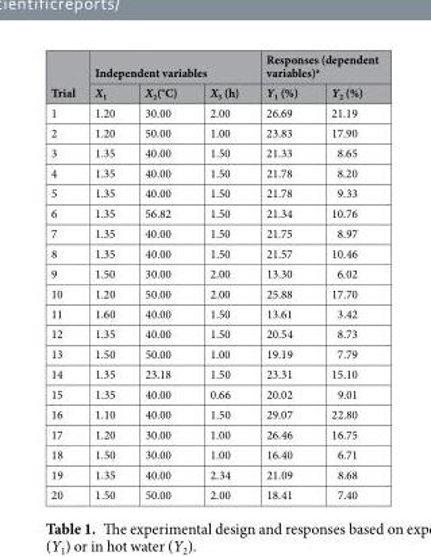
<table><thead><tr><td rowspan="2">Trial</td><td colspan="3">Independent variables</td><td colspan="2">Responses (dependent variables)<sup>a</sup></td></tr><tr><td>X<sub>1</sub></td><td>X<sub>2</sub>(°C)</td><td>X<sub>3</sub> (h)</td><td>Y<sub>1</sub> (%)</td><td>Y<sub>2</sub> (%)</td></tr></thead><tbody><tr><td>1</td><td>1.20</td><td>30.00</td><td>2.00</td><td>26.69</td><td>21.19</td></tr><tr><td>2</td><td>1.20</td><td>50.00</td><td>1.00</td><td>23.83</td><td>17.90</td></tr><tr><td>3</td><td>1.35</td><td>40.00</td><td>1.50</td><td>21.33</td><td>8.65</td></tr><tr><td>4</td><td>1.35</td><td>40.00</td><td>1.50</td><td>21.78</td><td>8.20</td></tr><tr><td>5</td><td>1.35</td><td>40.00</td><td>1.50</td><td>21.78</td><td>9.33</td></tr><tr><td>6</td><td>1.35</td><td>56.82</td><td>1.50</td><td>21.34</td><td>10.76</td></tr><tr><td>7</td><td>1.35</td><td>40.00</td><td>1.50</td><td>21.75</td><td>8.97</td></tr><tr><td>8</td><td>1.35</td><td>40.00</td><td>1.50</td><td>21.57</td><td>10.46</td></tr><tr><td>9</td><td>1.50</td><td>30.00</td><td>2.00</td><td>13.30</td><td>6.02</td></tr><tr><td>10</td><td>1.20</td><td>50.00</td><td>2.00</td><td>25.88</td><td>17.70</td></tr><tr><td>11</td><td>1.60</td><td>40.00</td><td>1.50</td><td>13.61</td><td>3.42</td></tr><tr><td>12</td><td>1.35</td><td>40.00</td><td>1.50</td><td>20.54</td><td>8.73</td></tr><tr><td>13</td><td>1.50</td><td>50.00</td><td>1.00</td><td>19.19</td><td>7.79</td></tr><tr><td>14</td><td>1.35</td><td>23.18</td><td>1.50</td><td>23.31</td><td>15.10</td></tr><tr><td>15</td><td>1.35</td><td>40.00</td><td>0.66</td><td>20.02</td><td>9.01</td></tr><tr><td>16</td><td>1.10</td><td>40.00</td><td>1.50</td><td>29.07</td><td>22.80</td></tr><tr><td>17</td><td>1.20</td><td>30.00</td><td>1.00</td><td>26.46</td><td>16.75</td></tr><tr><td>18</td><td>1.50</td><td>30.00</td><td>1.00</td><td>16.40</td><td>6.71</td></tr><tr><td>19</td><td>1.35</td><td>40.00</td><td>2.34</td><td>21.09</td><td>8.68</td></tr><tr><td>20</td><td>1.50</td><td>50.00</td><td>2.00</td><td>18.41</td><td>7.40</td></tr></tbody></table>